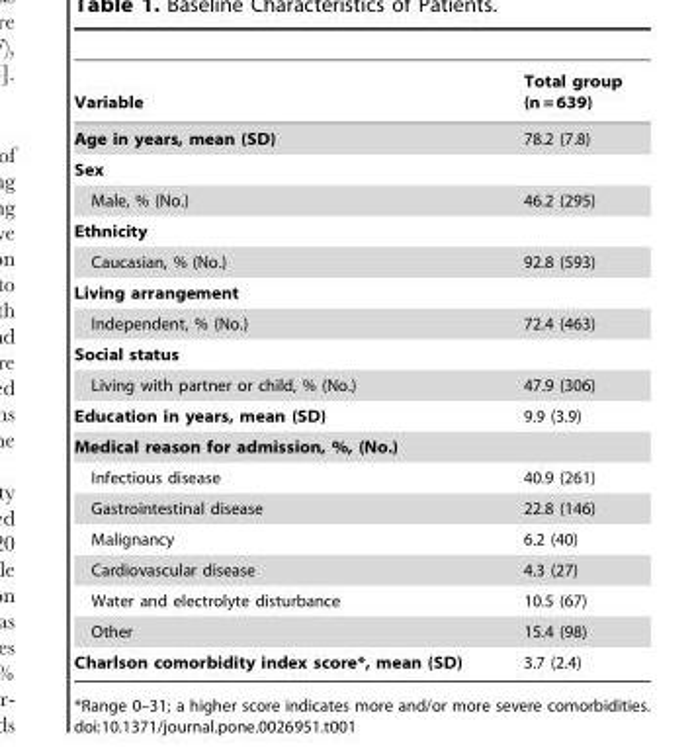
<table><thead><tr><td>Variable</td><td>Total group (n = 639)</td></tr></thead><tbody><tr><td>Age in years, mean (SD)</td><td>78.2 (7.8)</td></tr><tr><td colspan="2">Sex</td></tr><tr><td>Male, % (No.)</td><td>46.2 (295)</td></tr><tr><td colspan="2">Ethnicity</td></tr><tr><td>Caucasian, % (No.)</td><td>92.8 (593)</td></tr><tr><td colspan="2">Living arrangement</td></tr><tr><td>Independent, % (No.)</td><td>72.4 (463)</td></tr><tr><td colspan="2">Social status</td></tr><tr><td>Living with partner or child, % (No.)</td><td>47.9 (306)</td></tr><tr><td>Education in years, mean (SD)</td><td>9.9 (3.9)</td></tr><tr><td colspan="2">Medical reason for admission, %, (No.)</td></tr><tr><td>Infectious disease</td><td>40.9 (261)</td></tr><tr><td>Gastrointestinal disease</td><td>22.8 (146)</td></tr><tr><td>Malignancy</td><td>6.2 (40)</td></tr><tr><td>Cardiovascular disease</td><td>4.3 (27)</td></tr><tr><td>Water and electrolyte disturbance</td><td>10.5 (67)</td></tr><tr><td>Other</td><td>15.4 (98)</td></tr><tr><td>Charlson comorbidity index score*, mean (SD)</td><td>3.7 (2.4)</td></tr></tbody></table>